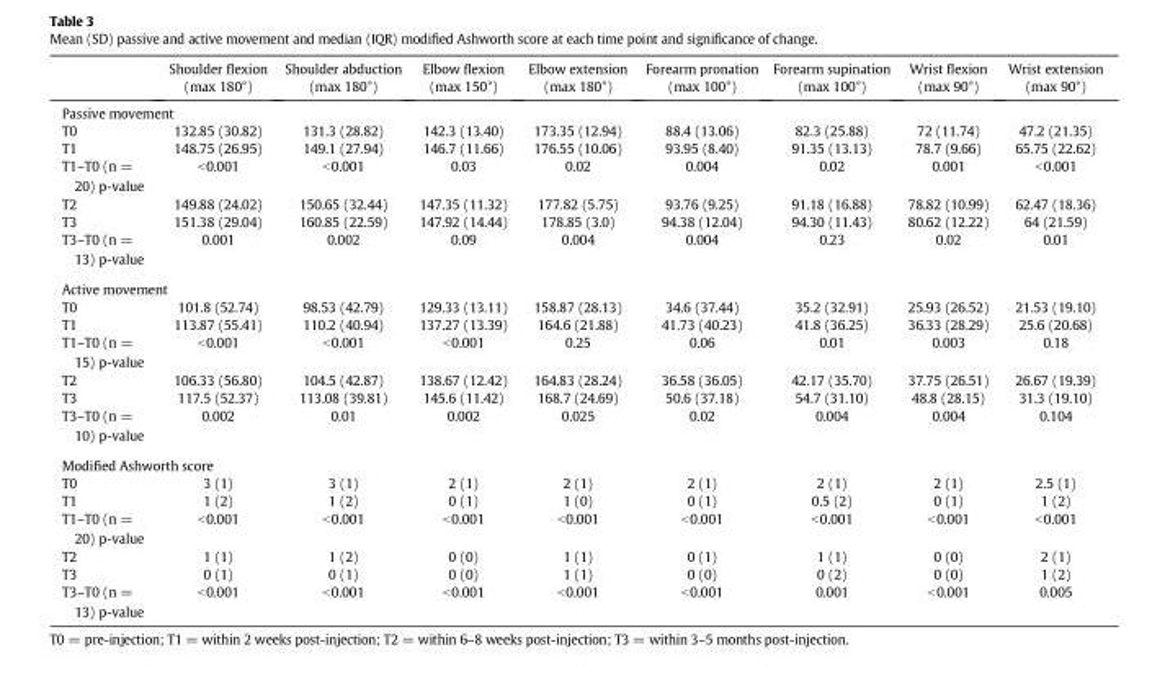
<table><thead><tr><td></td><td>Shoulder flexion (max 180°)</td><td>Shoulder abduction (max 180°)</td><td>Elbow flexion (max 150°)</td><td>Elbow extension (max 180°)</td><td>Forearm pronation (max 100°)</td><td>Forearm supination (max 100°)</td><td>Wrist flexion (max 90°)</td><td>Wrist extension (max 90°)</td></tr></thead><tbody><tr><td colspan="9">Passive movement</td></tr><tr><td>T0</td><td>132.85 (30.82)</td><td>131.3 (28.82)</td><td>142.3 (13.40)</td><td>173.35 (12.94)</td><td>88.4 (13.06)</td><td>82.3 (25.88)</td><td>72 (11.74)</td><td>47.2 (21.35)</td></tr><tr><td>T1</td><td>148.75 (26.95)</td><td>149.1 (27.94)</td><td>146.7 (11.66)</td><td>176.55 (10.06)</td><td>93.95 (8.40)</td><td>91.35 (13.13)</td><td>78.7 (9.66)</td><td>65.75 (22.62)</td></tr><tr><td>T1–T0 (n = 20) p-value</td><td>&lt;0.001</td><td>&lt;0.001</td><td>0.03</td><td>0.02</td><td>0.004</td><td>0.02</td><td>0.001</td><td>&lt;0.001</td></tr><tr><td>T2</td><td>149.88 (24.02)</td><td>150.65 (32.44)</td><td>147.35 (11.32)</td><td>177.82 (5.75)</td><td>93.76 (9.25)</td><td>91.18 (16.88)</td><td>78.82 (10.99)</td><td>62.47 (18.36)</td></tr><tr><td>T3</td><td>151.38 (29.04)</td><td>160.85 (22.59)</td><td>147.92 (14.44)</td><td>178.85 (3.0)</td><td>94.38 (12.04)</td><td>94.30 (11.43)</td><td>80.62 (12.22)</td><td>64 (21.59)</td></tr><tr><td>T3–T0 (n = 13) p-value</td><td>0.001</td><td>0.002</td><td>0.09</td><td>0.004</td><td>0.004</td><td>0.23</td><td>0.02</td><td>0.01</td></tr><tr><td colspan="9">Active movement</td></tr><tr><td>T0</td><td>101.8 (52.74)</td><td>98.53 (42.79)</td><td>129.33 (13.11)</td><td>158.87 (28.13)</td><td>34.6 (37.44)</td><td>35.2 (32.91)</td><td>25.93 (26.52)</td><td>21.53 (19.10)</td></tr><tr><td>T1</td><td>113.87 (55.41)</td><td>110.2 (40.94)</td><td>137.27 (13.39)</td><td>164.6 (21.88)</td><td>41.73 (40.23)</td><td>41.8 (36.25)</td><td>36.33 (28.29)</td><td>25.6 (20.68)</td></tr><tr><td>T1–T0 (n = 15) p-value</td><td>&lt;0.001</td><td>&lt;0.001</td><td>&lt;0.001</td><td>0.25</td><td>0.06</td><td>0.01</td><td>0.003</td><td>0.18</td></tr><tr><td>T2</td><td>106.33 (56.80)</td><td>104.5 (42.87)</td><td>138.67 (12.42)</td><td>164.83 (28.24)</td><td>36.58 (36.05)</td><td>42.17 (35.70)</td><td>37.75 (26.51)</td><td>26.67 (19.39)</td></tr><tr><td>T3</td><td>117.5 (52.37)</td><td>113.08 (39.81)</td><td>145.6 (11.42)</td><td>168.7 (24.69)</td><td>50.6 (37.18)</td><td>54.7 (31.10)</td><td>48.8 (28.15)</td><td>31.3 (19.10)</td></tr><tr><td>T3–T0 (n = 10) p-value</td><td>0.002</td><td>0.01</td><td>0.002</td><td>0.025</td><td>0.02</td><td>0.004</td><td>0.004</td><td>0.104</td></tr><tr><td colspan="9">Modified Ashworth score</td></tr><tr><td>T0</td><td>3 (1)</td><td>3 (1)</td><td>2 (1)</td><td>2 (1)</td><td>2 (1)</td><td>2 (1)</td><td>2 (1)</td><td>2.5 (1)</td></tr><tr><td>T1</td><td>1 (2)</td><td>1 (2)</td><td>0 (1)</td><td>1 (0)</td><td>0 (1)</td><td>0.5 (2)</td><td>0 (1)</td><td>1 (2)</td></tr><tr><td>T1–T0 (n = 20) p-value</td><td>&lt;0.001</td><td>&lt;0.001</td><td>&lt;0.001</td><td>&lt;0.001</td><td>&lt;0.001</td><td>&lt;0.001</td><td>&lt;0.001</td><td>&lt;0.001</td></tr><tr><td>T2</td><td>1 (1)</td><td>1 (2)</td><td>0 (0)</td><td>1 (1)</td><td>0 (1)</td><td>1 (1)</td><td>0 (0)</td><td>2 (1)</td></tr><tr><td>T3</td><td>0 (1)</td><td>0 (1)</td><td>0 (0)</td><td>1 (1)</td><td>0 (0)</td><td>0 (2)</td><td>0 (0)</td><td>1 (2)</td></tr><tr><td>T3–T0 (n = 13) p-value</td><td>&lt;0.001</td><td>&lt;0.001</td><td>&lt;0.001</td><td>&lt;0.001</td><td>&lt;0.001</td><td>0.001</td><td>&lt;0.001</td><td>0.005</td></tr></tbody></table>